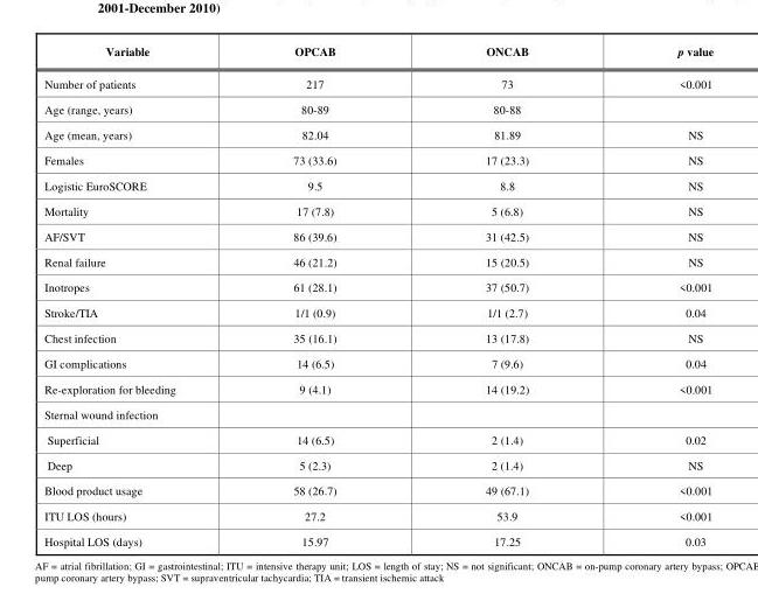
<table><thead><tr><td>Variable</td><td>OPCAB</td><td>ONCAB</td><td>p value</td></tr></thead><tbody><tr><td>Number of patients</td><td>217</td><td>73</td><td>&lt;0.001</td></tr><tr><td>Age (range, years)</td><td>80-89</td><td>80-88</td><td></td></tr><tr><td>Age (mean, years)</td><td>82.04</td><td>81.89</td><td>NS</td></tr><tr><td>Females</td><td>73 (33.6)</td><td>17 (23.3)</td><td>NS</td></tr><tr><td>Logistic EuroSCORE</td><td>9.5</td><td>8.8</td><td>NS</td></tr><tr><td>Mortality</td><td>17 (7.8)</td><td>5 (6.8)</td><td>NS</td></tr><tr><td>AF/SVT</td><td>86 (39.6)</td><td>31 (42.5)</td><td>NS</td></tr><tr><td>Renal failure</td><td>46 (21.2)</td><td>15 (20.5)</td><td>NS</td></tr><tr><td>Inotropes</td><td>61 (28.1)</td><td>37 (50.7)</td><td>&lt;0.001</td></tr><tr><td>Stroke/TIA</td><td>1/1 (0.9)</td><td>1/1 (2.7)</td><td>0.04</td></tr><tr><td>Chest infection</td><td>35 (16.1)</td><td>13 (17.8)</td><td>NS</td></tr><tr><td>GI complications</td><td>14 (6.5)</td><td>7 (9.6)</td><td>0.04</td></tr><tr><td>Re-exploration for bleeding</td><td>9 (4.1)</td><td>14 (19.2)</td><td>&lt;0.001</td></tr><tr><td colspan="4">Sternal wound infection</td></tr><tr><td>Superficial</td><td>14 (6.5)</td><td>2 (1.4)</td><td>0.02</td></tr><tr><td>Deep</td><td>5 (2.3)</td><td>2 (1.4)</td><td>NS</td></tr><tr><td>Blood product usage</td><td>58 (26.7)</td><td>49 (67.1)</td><td>&lt;0.001</td></tr><tr><td>ITU LOS (hours)</td><td>27.2</td><td>53.9</td><td>&lt;0.001</td></tr><tr><td>Hospital LOS (days)</td><td>15.97</td><td>17.25</td><td>0.03</td></tr></tbody></table>